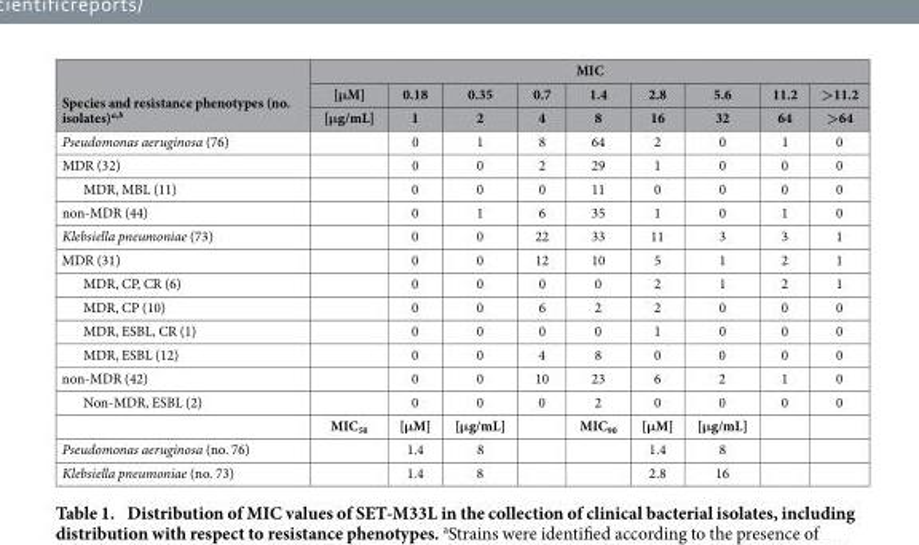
<table><thead><tr><td rowspan="3">Species and resistance phenotypes (no. isolates)<sup>a,b</sup></td><td colspan="9">MIC</td></tr><tr><td rowspan="2">[μM] [μg/mL]</td><td rowspan="2">0.18 1</td><td rowspan="2">0.35 2</td><td rowspan="2">0.7 4</td><td rowspan="2">1.4 8</td><td rowspan="2">2.8 16</td><td rowspan="2">5.6 32</td><td rowspan="2">11.2 64</td><td rowspan="2">&gt;11.2 &gt;64</td></tr><tr></tr></thead><tbody><tr><td>Pseudomonas aeruginosa (76)</td><td></td><td>0</td><td>1</td><td>8</td><td>64</td><td>2</td><td>0</td><td>1</td><td>0</td></tr><tr><td>MDR (32)</td><td></td><td>0</td><td>0</td><td>2</td><td>29</td><td>1</td><td>0</td><td>0</td><td>0</td></tr><tr><td>MDR, MBL (11)</td><td></td><td>0</td><td>0</td><td>0</td><td>11</td><td>0</td><td>0</td><td>0</td><td>0</td></tr><tr><td>non-MDR (44)</td><td></td><td>0</td><td>1</td><td>6</td><td>35</td><td>1</td><td>0</td><td>1</td><td>0</td></tr><tr><td>Klebsiella pneumoniae (73)</td><td></td><td>0</td><td>0</td><td>22</td><td>33</td><td>11</td><td>3</td><td>3</td><td>1</td></tr><tr><td>MDR (31)</td><td></td><td>0</td><td>0</td><td>12</td><td>10</td><td>5</td><td>1</td><td>2</td><td>1</td></tr><tr><td>MDR, CP, CR (6)</td><td></td><td>0</td><td>0</td><td>0</td><td>0</td><td>2</td><td>1</td><td>2</td><td>1</td></tr><tr><td>MDR, CP (10)</td><td></td><td>0</td><td>0</td><td>6</td><td>2</td><td>2</td><td>0</td><td>0</td><td>0</td></tr><tr><td>MDR, ESBL, CR (1)</td><td></td><td>0</td><td>0</td><td>0</td><td>0</td><td>1</td><td>0</td><td>0</td><td>0</td></tr><tr><td>MDR, ESBL (12)</td><td></td><td>0</td><td>0</td><td>4</td><td>8</td><td>0</td><td>0</td><td>0</td><td>0</td></tr><tr><td>non-MDR (42)</td><td></td><td>0</td><td>0</td><td>10</td><td>23</td><td>6</td><td>2</td><td>1</td><td>0</td></tr><tr><td rowspan="2">Non-MDR, ESBL (2)</td><td></td><td>0</td><td>0</td><td>0</td><td>2</td><td>0</td><td>0</td><td>0</td><td>0</td></tr><tr><td>MIC<sub>50</sub></td><td>[μM]</td><td>[μg/mL]</td><td></td><td>MIC<sub>90</sub></td><td>[μM]</td><td>[μg/mL]</td><td></td><td></td></tr><tr><td>Pseudomonas aeruginosa (no. 76)</td><td></td><td>1.4</td><td>8</td><td></td><td></td><td>1.4</td><td>8</td><td></td><td></td></tr><tr><td>Klebsiella pneumoniae (no. 73)</td><td></td><td>1.4</td><td>8</td><td></td><td></td><td>2.8</td><td>16</td><td></td><td></td></tr></tbody></table>